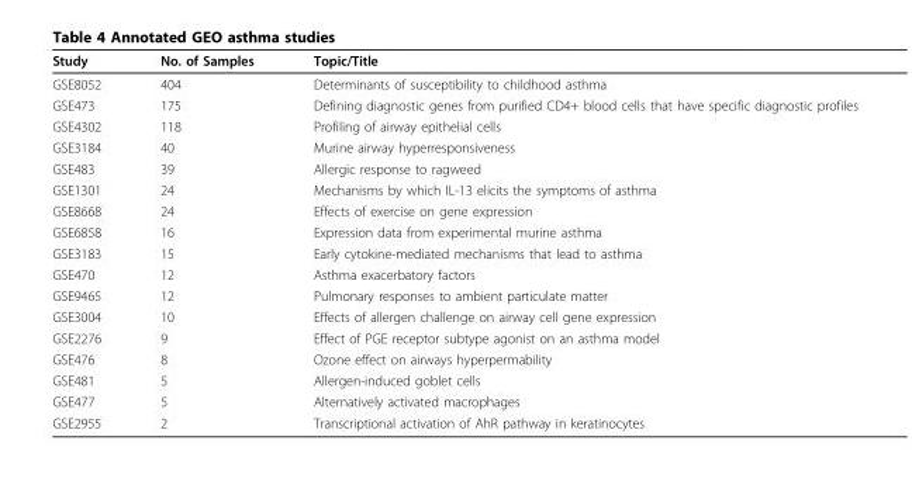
<table><thead><tr><td>Study</td><td>No. of Samples</td><td>Topic/Title</td></tr></thead><tbody><tr><td>GSE8052</td><td>404</td><td>Determinants of susceptibility to childhood asthma</td></tr><tr><td>GSE473</td><td>175</td><td>Defining diagnostic genes from purified CD4+ blood cells that have specific diagnostic profiles</td></tr><tr><td>GSE4302</td><td>118</td><td>Profiling of airway epithelial cells</td></tr><tr><td>GSE3184</td><td>40</td><td>Murine airway hyperresponsiveness</td></tr><tr><td>GSE483</td><td>39</td><td>Allergic response to ragweed</td></tr><tr><td>GSE1301</td><td>24</td><td>Mechanisms by which IL-13 elicits the symptoms of asthma</td></tr><tr><td>GSE8668</td><td>24</td><td>Effects of exercise on gene expression</td></tr><tr><td>GSE6858</td><td>16</td><td>Expression data from experimental murine asthma</td></tr><tr><td>GSE3183</td><td>15</td><td>Early cytokine-mediated mechanisms that lead to asthma</td></tr><tr><td>GSE470</td><td>12</td><td>Asthma exacerbatory factors</td></tr><tr><td>GSE9465</td><td>12</td><td>Pulmonary responses to ambient particulate matter</td></tr><tr><td>GSE3004</td><td>10</td><td>Effects of allergen challenge on airway cell gene expression</td></tr><tr><td>GSE2276</td><td>9</td><td>Effect of PGE receptor subtype agonist on an asthma model</td></tr><tr><td>GSE476</td><td>8</td><td>Ozone effect on airways hyperpermability</td></tr><tr><td>GSE481</td><td>5</td><td>Allergen-induced goblet cells</td></tr><tr><td>GSE477</td><td>5</td><td>Alternatively activated macrophages</td></tr><tr><td>GSE2955</td><td>2</td><td>Transcriptional activation of AhR pathway in keratinocytes</td></tr></tbody></table>